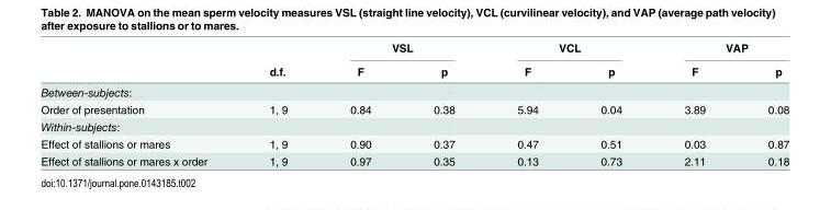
<table><thead><tr><td rowspan="2"></td><td rowspan="2">d.f.</td><td colspan="2">VSL</td><td colspan="2">VCL</td><td colspan="2">VAP</td></tr><tr><td>F</td><td>p</td><td>F</td><td>p</td><td>F</td><td>p</td></tr></thead><tbody><tr><td colspan="8">Between-subjects:</td></tr><tr><td>Order of presentation</td><td>1, 9</td><td>0.84</td><td>0.38</td><td>5.94</td><td>0.04</td><td>3.89</td><td>0.08</td></tr><tr><td colspan="8">Within-subjects:</td></tr><tr><td>Effect of stallions or mares</td><td>1, 9</td><td>0.90</td><td>0.37</td><td>0.47</td><td>0.51</td><td>0.03</td><td>0.87</td></tr><tr><td>Effect of stallions or mares x order</td><td>1, 9</td><td>0.97</td><td>0.35</td><td>0.13</td><td>0.73</td><td>2.11</td><td>0.18</td></tr></tbody></table>